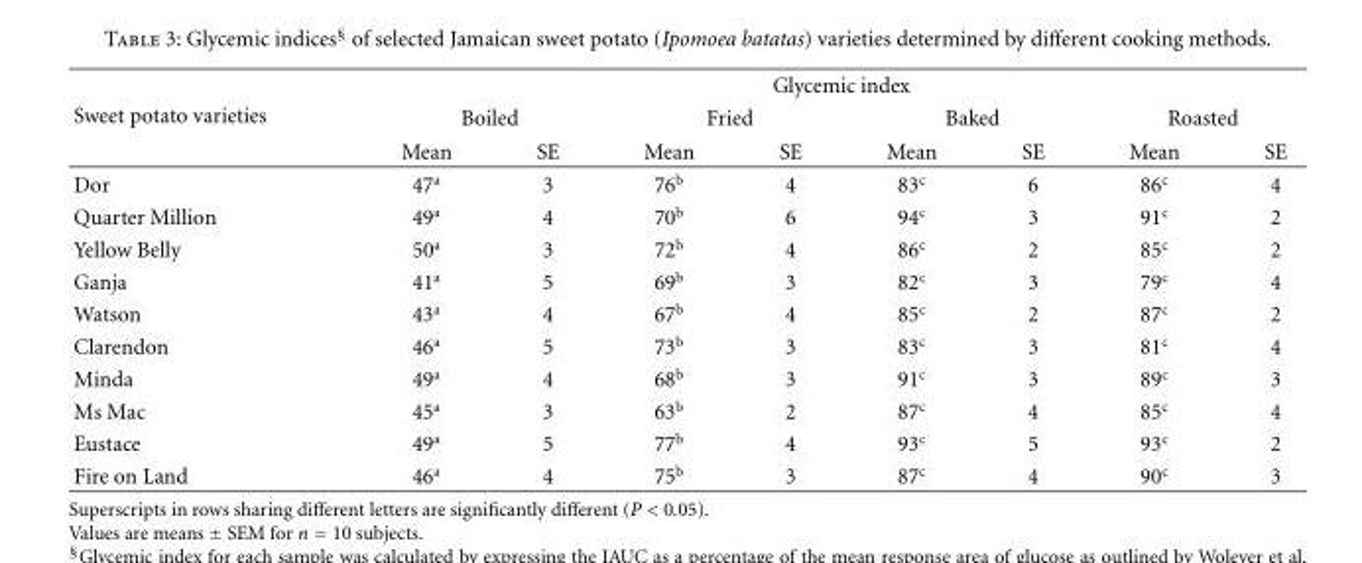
<table><thead><tr><td rowspan="3">Sweet potato varieties</td><td colspan="8">Glycemic index</td></tr><tr><td colspan="2">Boiled</td><td colspan="2">Fried</td><td colspan="2">Baked</td><td colspan="2">Roasted</td></tr><tr><td>Mean</td><td>SE</td><td>Mean</td><td>SE</td><td>Mean</td><td>SE</td><td>Mean</td><td>SE</td></tr></thead><tbody><tr><td>Dor</td><td>47<sup>a</sup></td><td>3</td><td>76<sup>b</sup></td><td>4</td><td>83<sup>c</sup></td><td>6</td><td>86<sup>c</sup></td><td>4</td></tr><tr><td>Quarter Million</td><td>49<sup>a</sup></td><td>4</td><td>70<sup>b</sup></td><td>6</td><td>94<sup>c</sup></td><td>3</td><td>91<sup>c</sup></td><td>2</td></tr><tr><td>Yellow Belly</td><td>50<sup>a</sup></td><td>3</td><td>72<sup>b</sup></td><td>4</td><td>86<sup>c</sup></td><td>2</td><td>85<sup>c</sup></td><td>2</td></tr><tr><td>Ganja</td><td>41<sup>a</sup></td><td>5</td><td>69<sup>b</sup></td><td>3</td><td>82<sup>c</sup></td><td>3</td><td>79<sup>c</sup></td><td>4</td></tr><tr><td>Watson</td><td>43<sup>a</sup></td><td>4</td><td>67<sup>b</sup></td><td>4</td><td>85<sup>c</sup></td><td>2</td><td>87<sup>c</sup></td><td>2</td></tr><tr><td>Clarendon</td><td>46<sup>a</sup></td><td>5</td><td>73<sup>b</sup></td><td>3</td><td>83<sup>c</sup></td><td>3</td><td>81<sup>c</sup></td><td>4</td></tr><tr><td>Minda</td><td>49<sup>a</sup></td><td>4</td><td>68<sup>b</sup></td><td>3</td><td>91<sup>c</sup></td><td>3</td><td>89<sup>c</sup></td><td>3</td></tr><tr><td>Ms Mac</td><td>45<sup>a</sup></td><td>3</td><td>63<sup>b</sup></td><td>2</td><td>87<sup>c</sup></td><td>4</td><td>85<sup>c</sup></td><td>4</td></tr><tr><td>Eustace</td><td>49<sup>a</sup></td><td>5</td><td>77<sup>b</sup></td><td>4</td><td>93<sup>c</sup></td><td>5</td><td>93<sup>c</sup></td><td>2</td></tr><tr><td>Fire on Land</td><td>46<sup>a</sup></td><td>4</td><td>75<sup>b</sup></td><td>3</td><td>87<sup>c</sup></td><td>4</td><td>90<sup>c</sup></td><td>3</td></tr></tbody></table>